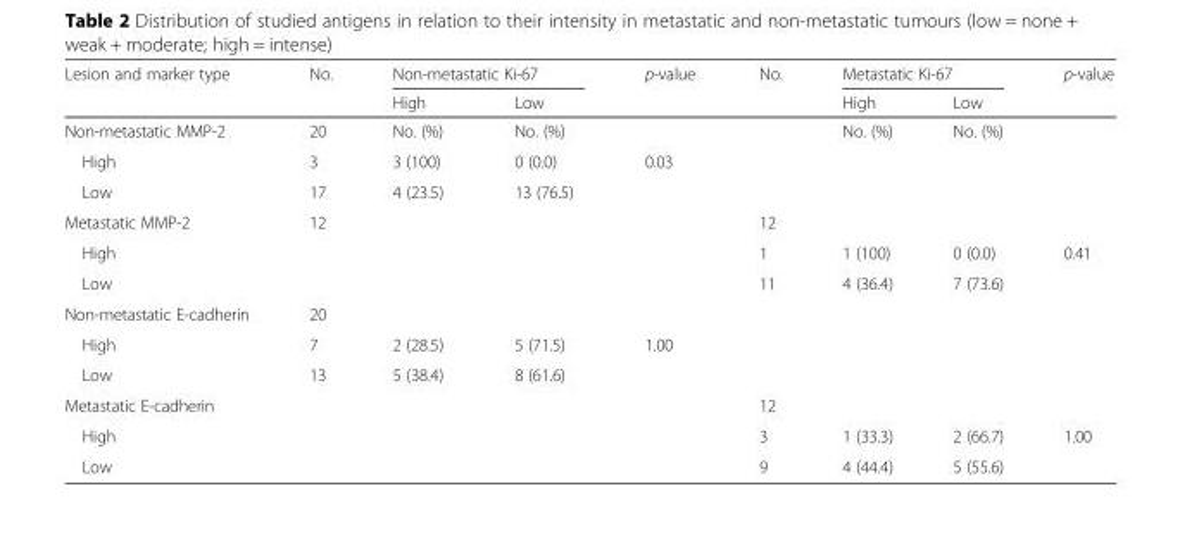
<table><thead><tr><td rowspan="2">Lesion and marker type</td><td rowspan="2">No.</td><td colspan="2">Non-metastatic Ki-67</td><td rowspan="2">p-value</td><td rowspan="2">No.</td><td colspan="2">Metastatic Ki-67</td><td rowspan="2">p-value</td></tr><tr><td>High</td><td>Low</td><td>High</td><td>Low</td></tr></thead><tbody><tr><td>Non-metastatic MMP-2</td><td>20</td><td>No. (%)</td><td>No. (%)</td><td></td><td></td><td>No. (%)</td><td>No. (%)</td><td></td></tr><tr><td>High</td><td>3</td><td>3 (100)</td><td>0 (0.0)</td><td>0.03</td><td></td><td></td><td></td><td></td></tr><tr><td>Low</td><td>17</td><td>4 (23.5)</td><td>13 (76.5)</td><td></td><td></td><td></td><td></td><td></td></tr><tr><td>Metastatic MMP-2</td><td>12</td><td></td><td></td><td></td><td>12</td><td></td><td></td><td></td></tr><tr><td>High</td><td></td><td></td><td></td><td></td><td>1</td><td>1 (100)</td><td>0 (0.0)</td><td>0.41</td></tr><tr><td>Low</td><td></td><td></td><td></td><td></td><td>11</td><td>4 (36.4)</td><td>7 (73.6)</td><td></td></tr><tr><td>Non-metastatic E-cadherin</td><td>20</td><td></td><td></td><td></td><td></td><td></td><td></td><td></td></tr><tr><td>High</td><td>7</td><td>2 (28.5)</td><td>5 (71.5)</td><td>1.00</td><td></td><td></td><td></td><td></td></tr><tr><td>Low</td><td>13</td><td>5 (38.4)</td><td>8 (61.6)</td><td></td><td></td><td></td><td></td><td></td></tr><tr><td>Metastatic E-cadherin</td><td></td><td></td><td></td><td></td><td>12</td><td></td><td></td><td></td></tr><tr><td>High</td><td></td><td></td><td></td><td></td><td>3</td><td>1 (33.3)</td><td>2 (66.7)</td><td>1.00</td></tr><tr><td>Low</td><td></td><td></td><td></td><td></td><td>9</td><td>4 (44.4)</td><td>5 (55.6)</td><td></td></tr></tbody></table>